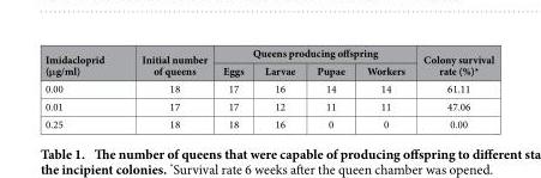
<table><thead><tr><td rowspan="2">Imidacloprid (μg/ml)</td><td rowspan="2">Initial number of queens</td><td colspan="4">Queens producing offspring</td><td rowspan="2">Colony survival rate (%)*</td></tr><tr><td>Eggs</td><td>Larvae</td><td>Pupae</td><td>Workers</td></tr></thead><tbody><tr><td>0.00</td><td>18</td><td>17</td><td>16</td><td>14</td><td>14</td><td>61.11</td></tr><tr><td>0.01</td><td>17</td><td>17</td><td>12</td><td>11</td><td>11</td><td>47.06</td></tr><tr><td>0.25</td><td>18</td><td>18</td><td>16</td><td>0</td><td>0</td><td>0.00</td></tr></tbody></table>